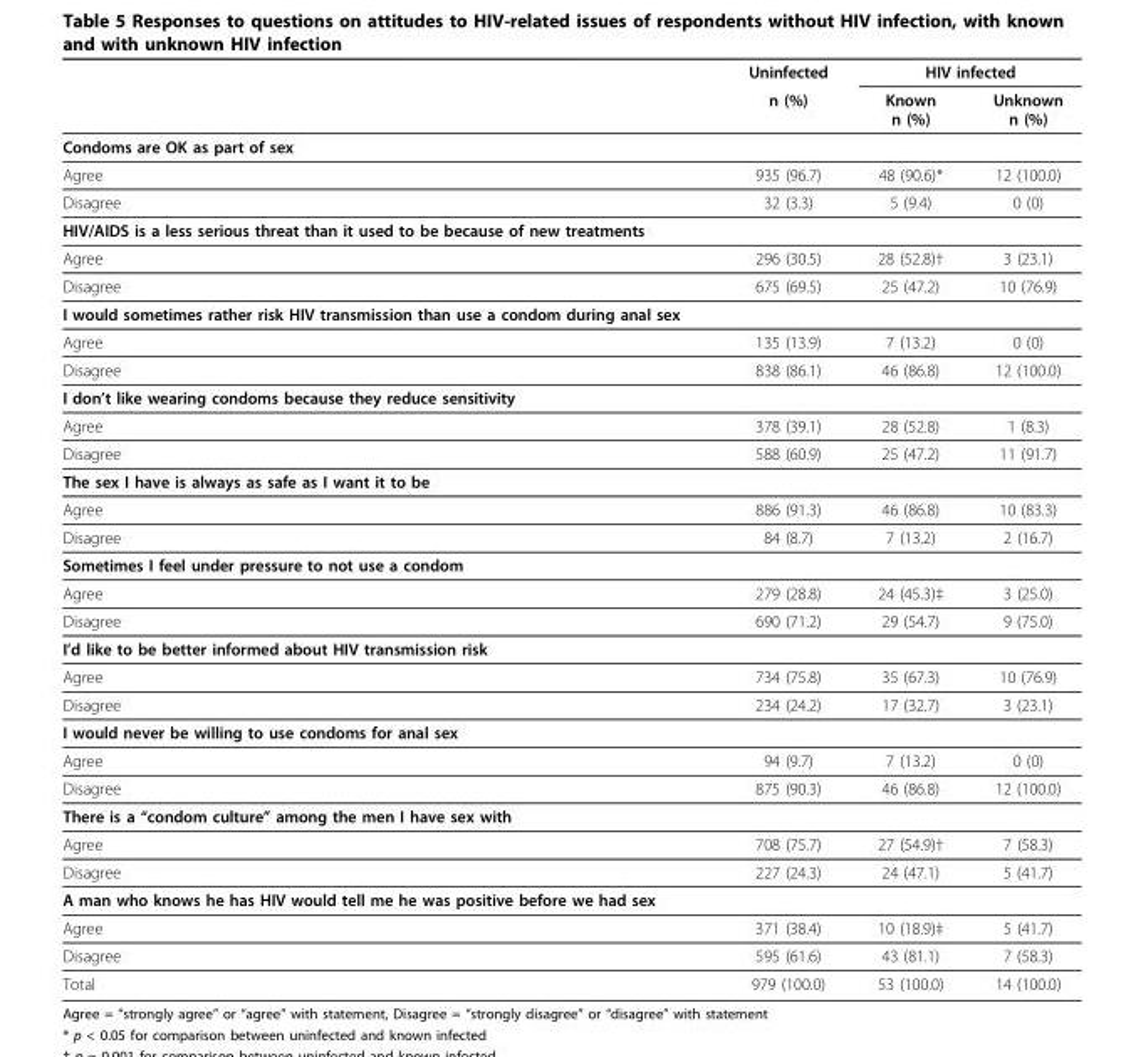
<table><thead><tr><td rowspan="2"></td><td rowspan="2">Uninfected n (%)</td><td colspan="2">HIV infected</td></tr><tr><td>Known n (%)</td><td>Unknown n (%)</td></tr></thead><tbody><tr><td colspan="4">Condoms are OK as part of sex</td></tr><tr><td>Agree</td><td>935 (96.7)</td><td>48 (90.6)*</td><td>12 (100.0)</td></tr><tr><td>Disagree</td><td>32 (3.3)</td><td>5 (9.4)</td><td>0 (0)</td></tr><tr><td colspan="4">HIV/AIDS is a less serious threat than it used to be because of new treatments</td></tr><tr><td>Agree</td><td>296 (30.5)</td><td>28 (52.8)†</td><td>3 (23.1)</td></tr><tr><td>Disagree</td><td>675 (69.5)</td><td>25 (47.2)</td><td>10 (76.9)</td></tr><tr><td colspan="4">I would sometimes rather risk HIV transmission than use a condom during anal sex</td></tr><tr><td>Agree</td><td>135 (13.9)</td><td>7 (13.2)</td><td>0 (0)</td></tr><tr><td>Disagree</td><td>838 (86.1)</td><td>46 (86.8)</td><td>12 (100.0)</td></tr><tr><td colspan="4">I don’t like wearing condoms because they reduce sensitivity</td></tr><tr><td>Agree</td><td>378 (39.1)</td><td>28 (52.8)</td><td>1 (8.3)</td></tr><tr><td>Disagree</td><td>588 (60.9)</td><td>25 (47.2)</td><td>11 (91.7)</td></tr><tr><td colspan="4">The sex I have is always as safe as I want it to be</td></tr><tr><td>Agree</td><td>886 (91.3)</td><td>46 (86.8)</td><td>10 (83.3)</td></tr><tr><td>Disagree</td><td>84 (8.7)</td><td>7 (13.2)</td><td>2 (16.7)</td></tr><tr><td colspan="4">Sometimes I feel under pressure to not use a condom</td></tr><tr><td>Agree</td><td>279 (28.8)</td><td>24 (45.3)‡</td><td>3 (25.0)</td></tr><tr><td>Disagree</td><td>690 (71.2)</td><td>29 (54.7)</td><td>9 (75.0)</td></tr><tr><td colspan="4">I’d like to be better informed about HIV transmission risk</td></tr><tr><td>Agree</td><td>734 (75.8)</td><td>35 (67.3)</td><td>10 (76.9)</td></tr><tr><td>Disagree</td><td>234 (24.2)</td><td>17 (32.7)</td><td>3 (23.1)</td></tr><tr><td colspan="4">I would never be willing to use condoms for anal sex</td></tr><tr><td>Agree</td><td>94 (9.7)</td><td>7 (13.2)</td><td>0 (0)</td></tr><tr><td>Disagree</td><td>875 (90.3)</td><td>46 (86.8)</td><td>12 (100.0)</td></tr><tr><td colspan="4">There is a “condom culture” among the men I have sex with</td></tr><tr><td>Agree</td><td>708 (75.7)</td><td>27 (54.9)†</td><td>7 (58.3)</td></tr><tr><td>Disagree</td><td>227 (24.3)</td><td>24 (47.1)</td><td>5 (41.7)</td></tr><tr><td colspan="4">A man who knows he has HIV would tell me he was positive before we had sex</td></tr><tr><td>Agree</td><td>371 (38.4)</td><td>10 (18.9)‡</td><td>5 (41.7)</td></tr><tr><td>Disagree</td><td>595 (61.6)</td><td>43 (81.1)</td><td>7 (58.3)</td></tr><tr><td>Total</td><td>979 (100.0)</td><td>53 (100.0)</td><td>14 (100.0)</td></tr></tbody></table>